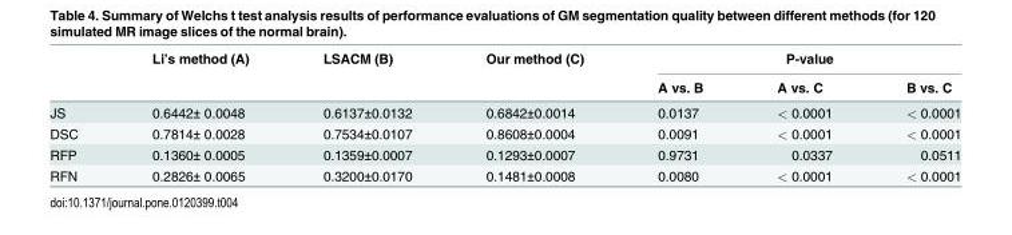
<table><thead><tr><td rowspan="2"></td><td rowspan="2">Li’s method (A)</td><td rowspan="2">LSACM (B)</td><td rowspan="2">Our method (C)</td><td colspan="3">P-value</td></tr><tr><td>A vs. B</td><td>A vs. C</td><td>B vs. C</td></tr></thead><tbody><tr><td>JS</td><td>0.6442± 0.0048</td><td>0.6137±0.0132</td><td>0.6842±0.0014</td><td>0.0137</td><td>&lt; 0.0001</td><td>&lt; 0.0001</td></tr><tr><td>DSC</td><td>0.7814± 0.0028</td><td>0.7534±0.0107</td><td>0.8608±0.0004</td><td>0.0091</td><td>&lt; 0.0001</td><td>&lt; 0.0001</td></tr><tr><td>RFP</td><td>0.1360± 0.0005</td><td>0.1359±0.0007</td><td>0.1293±0.0007</td><td>0.9731</td><td>0.0337</td><td>0.0511</td></tr><tr><td>RFN</td><td>0.2826± 0.0065</td><td>0.3200±0.0170</td><td>0.1481±0.0008</td><td>0.0080</td><td>&lt; 0.0001</td><td>&lt; 0.0001</td></tr></tbody></table>